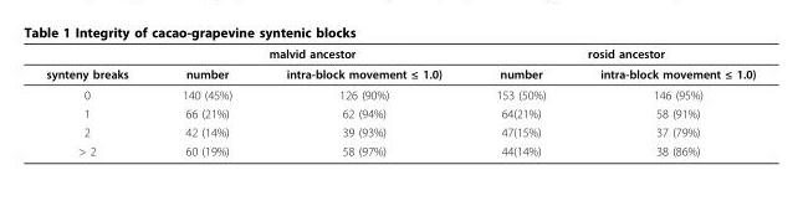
<table><thead><tr><td rowspan="2">synteny breaks</td><td colspan="2">malvid ancestor</td><td colspan="2">rosid ancestor</td></tr><tr><td>number</td><td>intra-block movement ≤ 1.0)</td><td>number</td><td>intra-block movement ≤ 1.0)</td></tr></thead><tbody><tr><td>0</td><td>140 (45%)</td><td>126 (90%)</td><td>153 (50%)</td><td>146 (95%)</td></tr><tr><td>1</td><td>66 (21%)</td><td>62 (94%)</td><td>64(21%)</td><td>58 (91%)</td></tr><tr><td>2</td><td>42 (14%)</td><td>39 (93%)</td><td>47(15%)</td><td>37 (79%)</td></tr><tr><td>&gt; 2</td><td>60 (19%)</td><td>58 (97%)</td><td>44(14%)</td><td>38 (86%)</td></tr></tbody></table>